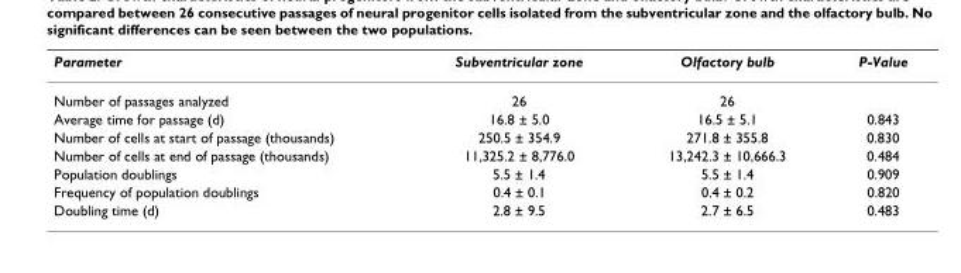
<table><thead><tr><td>Parameter</td><td>Subventricular zone</td><td>Olfactory bulb</td><td>P-Value</td></tr></thead><tbody><tr><td>Number of passages analyzed</td><td>26</td><td>26</td><td></td></tr><tr><td>Average time for passage (d)</td><td>16.8 ± 5.0</td><td>16.5 ± 5.1</td><td>0.843</td></tr><tr><td>Number of cells at start of passage (thousands)</td><td>250.5 ± 354.9</td><td>271.8 ± 355.8</td><td>0.830</td></tr><tr><td>Number of cells at end of passage (thousands)</td><td>11,325.2 ± 8,776.0</td><td>13,242.3 ± 10,666.3</td><td>0.484</td></tr><tr><td>Population doublings</td><td>5.5 ± 1.4</td><td>5.5 ± 1.4</td><td>0.909</td></tr><tr><td>Frequency of population doublings</td><td>0.4 ± 0.1</td><td>0.4 ± 0.2</td><td>0.820</td></tr><tr><td>Doubling time (d)</td><td>2.8 ± 9.5</td><td>2.7 ± 6.5</td><td>0.483</td></tr></tbody></table>